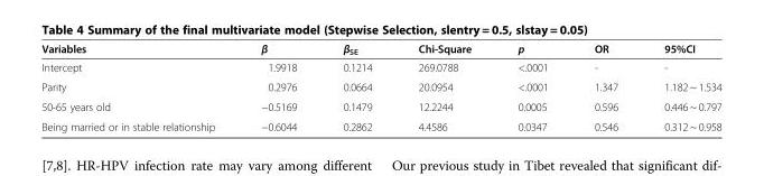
<table><thead><tr><td>Variables</td><td>β</td><td>β<sub>SE</sub></td><td>Chi-Square</td><td>p</td><td>OR</td><td>95%CI</td></tr></thead><tbody><tr><td>Intercept</td><td>1.9918</td><td>0.1214</td><td>269.0788</td><td>&lt;.0001</td><td>-</td><td>-</td></tr><tr><td>Parity</td><td>0.2976</td><td>0.0664</td><td>20.0954</td><td>&lt;.0001</td><td>1.347</td><td>1.182 ~ 1.534</td></tr><tr><td>50-65 years old</td><td>−0.5169</td><td>0.1479</td><td>12.2244</td><td>0.0005</td><td>0.596</td><td>0.446 ~ 0.797</td></tr><tr><td>Being married or in stable relationship</td><td>−0.6044</td><td>0.2862</td><td>4.4586</td><td>0.0347</td><td>0.546</td><td>0.312 ~ 0.958</td></tr></tbody></table>